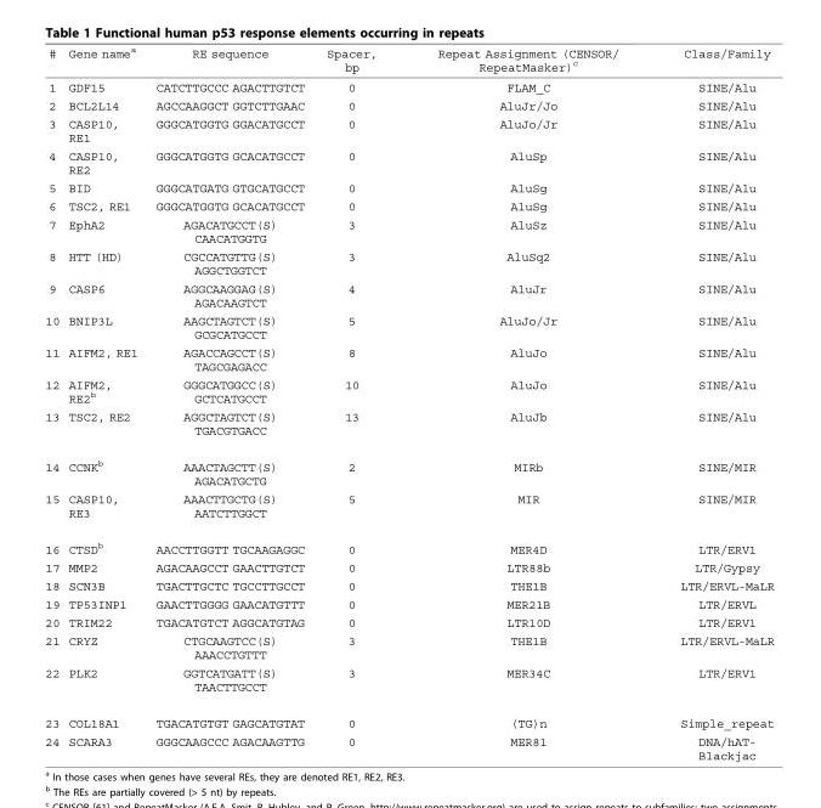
<table><thead><tr><td>#</td><td>Gene name<sup>a</sup></td><td>RE sequence</td><td>Spacer, bp</td><td>Repeat Assignment (CENSOR/ RepeatMasker)<sup>c</sup></td><td>Class/Family</td></tr></thead><tbody><tr><td>1</td><td>GDF15</td><td>CATCTTGCCC AGACTTGTCT</td><td>0</td><td>FLAM_C</td><td>SINE/Alu</td></tr><tr><td>2</td><td>BCL2L14</td><td>AGCCAAGGCT GGTCTTGAAC</td><td>0</td><td>AluJr/Jo</td><td>SINE/Alu</td></tr><tr><td>3</td><td>CASP10, RE1</td><td>GGGCATGGTG GGACATGCCT</td><td>0</td><td>AluJo/Jr</td><td>SINE/Alu</td></tr><tr><td>4</td><td>CASP10, RE2</td><td>GGGCATGGTG GCACATGCCT</td><td>0</td><td>AluSp</td><td>SINE/Alu</td></tr><tr><td>5</td><td>BID</td><td>GGGCATGATG GTGCATGCCT</td><td>0</td><td>AluSg</td><td>SINE/Alu</td></tr><tr><td>6</td><td>TSC2, RE1</td><td>GGGCATGGTG GCACATGCCT</td><td>0</td><td>AluSg</td><td>SINE/Alu</td></tr><tr><td>7</td><td>EphA2</td><td>AGACATGCCT(S) CAACATGGTG</td><td>3</td><td>AluSz</td><td>SINE/Alu</td></tr><tr><td>8</td><td>HTT (HD)</td><td>CGCCATGTTG(S) AGGCTGGTCT</td><td>3</td><td>AluSq2</td><td>SINE/Alu</td></tr><tr><td>9</td><td>CASP6</td><td>AGGCAAGGAG(S) AGACAAGTCT</td><td>4</td><td>AluJr</td><td>SINE/Alu</td></tr><tr><td>10</td><td>BNIP3L</td><td>AAGCTAGTCT(S) GCGCATGCCT</td><td>5</td><td>AluJo/Jr</td><td>SINE/Alu</td></tr><tr><td>11</td><td>AIFM2, RE1</td><td>AGACCAGCCT(S) TAGCGAGACC</td><td>8</td><td>AluJo</td><td>SINE/Alu</td></tr><tr><td>12</td><td>AIFM2, RE2<sup>b</sup></td><td>GGGCATGGCC(S) GCTCATGCCT</td><td>10</td><td>AluJo</td><td>SINE/Alu</td></tr><tr><td>13</td><td>TSC2, RE2</td><td>AGGCTAGTCT(S) TGACGTGACC</td><td>13</td><td>AluJb</td><td>SINE/Alu</td></tr><tr><td>14</td><td>CCNK<sup>b</sup></td><td>AAACTAGCTT(S) AGACATGCTG</td><td>2</td><td>MIRb</td><td>SINE/MIR</td></tr><tr><td>15</td><td>CASP10, RE3</td><td>AAACTTGCTG(S) AATCTTGGCT</td><td>5</td><td>MIR</td><td>SINE/MIR</td></tr><tr><td>16</td><td>CTSD<sup>b</sup></td><td>AACCTTGGTT TGCAAGAGGC</td><td>0</td><td>MER4D</td><td>LTR/ERV1</td></tr><tr><td>17</td><td>MMP2</td><td>AGACAAGCCT GAACTTGTCT</td><td>0</td><td>LTR88b</td><td>LTR/Gypsy</td></tr><tr><td>18</td><td>SCN3B</td><td>TGACTTGCTC TGCCTTGCCT</td><td>0</td><td>THE1B</td><td>LTR/ERVL-MaLR</td></tr><tr><td>19</td><td>TP53INP1</td><td>GAACTTGGGG GAACATGTTT</td><td>0</td><td>MER21B</td><td>LTR/ERVL</td></tr><tr><td>20</td><td>TRIM22</td><td>TGACATGTCT AGGCATGTAG</td><td>0</td><td>LTR10D</td><td>LTR/ERV1</td></tr><tr><td>21</td><td>CRYZ</td><td>CTGCAAGTCC(S) AAACCTGTTT</td><td>3</td><td>THE1B</td><td>LTR/ERVL-MaLR</td></tr><tr><td>22</td><td>PLK2</td><td>GGTCATGATT(S) TAACTTGCCT</td><td>3</td><td>MER34C</td><td>LTR/ERV1</td></tr><tr><td>23</td><td>COL18A1</td><td>TGACATGTGT GAGCATGTAT</td><td>0</td><td>(TG)n</td><td>Simple_repeat</td></tr><tr><td>24</td><td>SCARA3</td><td>GGGCAAGCCC AGACAAGTTG</td><td>0</td><td>MER81</td><td>DNA/hAT- Blackjac</td></tr></tbody></table>